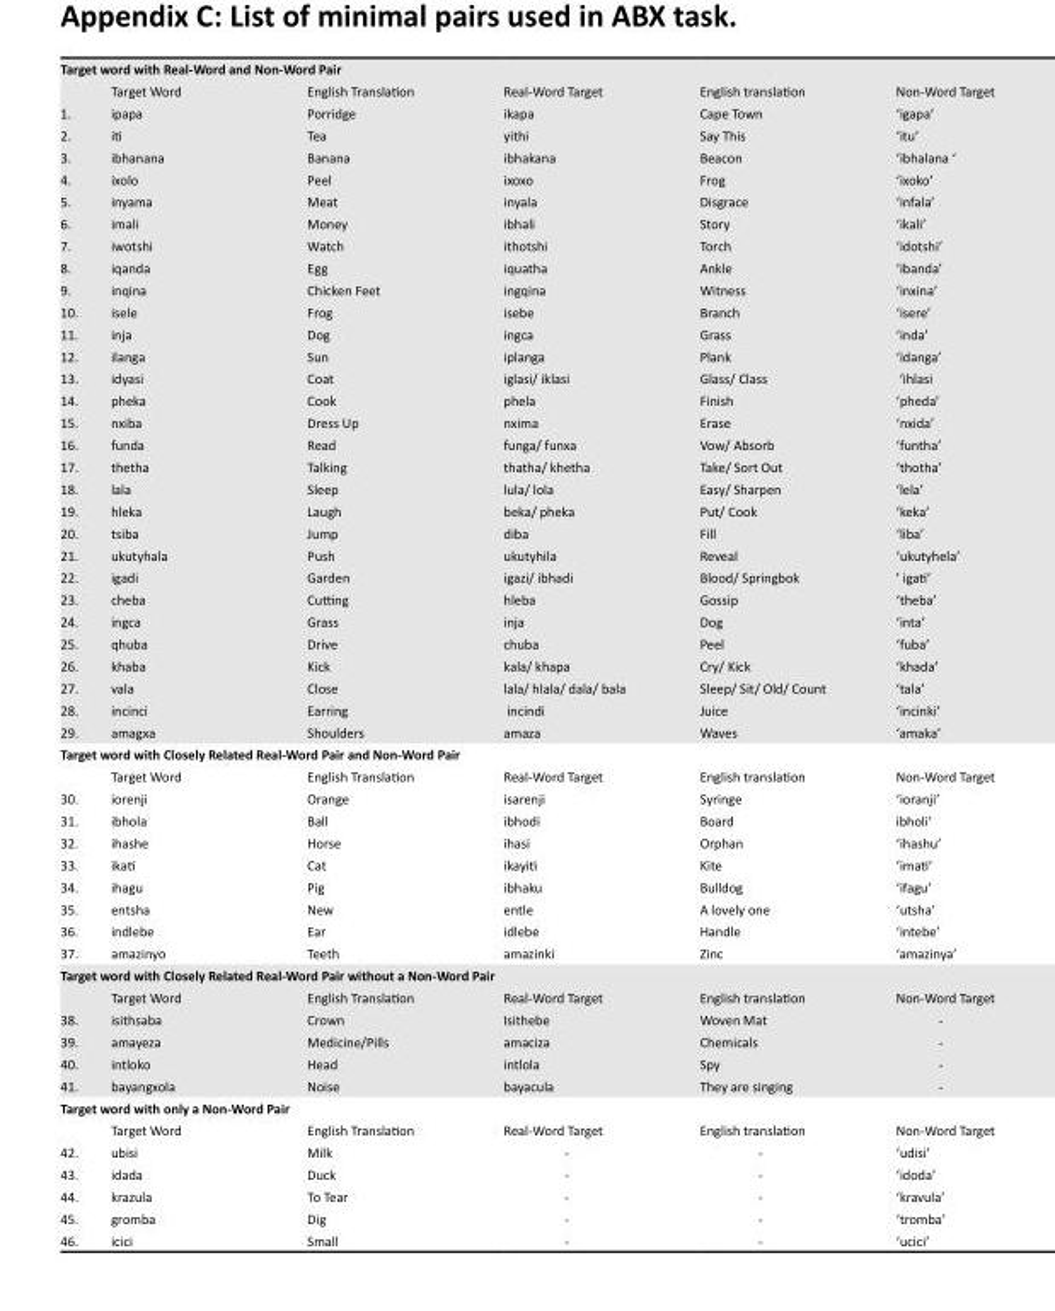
<table><tbody><tr><td colspan="6">Target word with Real-Word and Non-Word Pair</td></tr><tr><td></td><td>Target Word</td><td>English Translation</td><td>Real-Word Target</td><td>English translation</td><td>Non-Word Target</td></tr><tr><td>1.</td><td>ipapa</td><td>Porridge</td><td>ikapa</td><td>Cape Town</td><td>‘igapa’</td></tr><tr><td>2.</td><td>iti</td><td>Tea</td><td>yithi</td><td>Say This</td><td>‘itu’</td></tr><tr><td>3.</td><td>ibhanana</td><td>Banana</td><td>ibhakana</td><td>Beacon</td><td>‘ibhalana ‘</td></tr><tr><td>4.</td><td>ixolo</td><td>Peel</td><td>ixoxo</td><td>Frog</td><td>‘ixoko’</td></tr><tr><td>5.</td><td>inyama</td><td>Meat</td><td>inyala</td><td>Disgrace</td><td>‘infala’</td></tr><tr><td>6.</td><td>imali</td><td>Money</td><td>ibhali</td><td>Story</td><td>‘ikali’</td></tr><tr><td>7.</td><td>iwotshi</td><td>Watch</td><td>ithotshi</td><td>Torch</td><td>‘idotshi’</td></tr><tr><td>8.</td><td>iqanda</td><td>Egg</td><td>iquatha</td><td>Ankle</td><td>‘ibanda’</td></tr><tr><td>9.</td><td>inqina</td><td>Chicken Feet</td><td>ingqina</td><td>Witness</td><td>‘inxina’</td></tr><tr><td>10.</td><td>isele</td><td>Frog</td><td>isebe</td><td>Branch</td><td>‘isere’</td></tr><tr><td>11.</td><td>inja</td><td>Dog</td><td>ingca</td><td>Grass</td><td>‘inda’</td></tr><tr><td>12.</td><td>ilanga</td><td>Sun</td><td>iplanga</td><td>Plank</td><td>‘idanga’</td></tr><tr><td>13.</td><td>idyasi</td><td>Coat</td><td>iglasi/ iklasi</td><td>Glass/ Class</td><td>‘ihlasi</td></tr><tr><td>14.</td><td>pheka</td><td>Cook</td><td>phela</td><td>Finish</td><td>‘pheda’</td></tr><tr><td>15.</td><td>nxiba</td><td>Dress Up</td><td>nxima</td><td>Erase</td><td>‘nxida’</td></tr><tr><td>16.</td><td>funda</td><td>Read</td><td>funga/ funxa</td><td>Vow/ Absorb</td><td>‘funtha’</td></tr><tr><td>17.</td><td>thetha</td><td>Talking</td><td>thatha/ khetha</td><td>Take/ Sort Out</td><td>‘thotha’</td></tr><tr><td>18.</td><td>lala</td><td>Sleep</td><td>lula/ lola</td><td>Easy/ Sharpen</td><td>‘lela’</td></tr><tr><td>19.</td><td>hleka</td><td>Laugh</td><td>beka/ pheka</td><td>Put/ Cook</td><td>‘keka’</td></tr><tr><td>20.</td><td>tsiba</td><td>Jump</td><td>diba</td><td>Fill</td><td>‘liba’</td></tr><tr><td>21.</td><td>ukutyhala</td><td>Push</td><td>ukutyhila</td><td>Reveal</td><td>‘ukutyhela’</td></tr><tr><td>22.</td><td>igadi</td><td>Garden</td><td>igazi/ ibhadi</td><td>Blood/ Springbok</td><td>’ igati’</td></tr><tr><td>23.</td><td>cheba</td><td>Cutting</td><td>hleba</td><td>Gossip</td><td>‘theba’</td></tr><tr><td>24.</td><td>ingca</td><td>Grass</td><td>inja</td><td>Dog</td><td>‘inta’</td></tr><tr><td>25.</td><td>qhuba</td><td>Drive</td><td>chuba</td><td>Peel</td><td>‘fuba’</td></tr><tr><td>26.</td><td>khaba</td><td>Kick</td><td>kala/ khapa</td><td>Cry/ Kick</td><td>‘khada’</td></tr><tr><td>27.</td><td>vala</td><td>Close</td><td>lala/ hlala/ dala/ bala</td><td>Sleep/ Sit/ Old/ Count</td><td>‘tala’</td></tr><tr><td>28.</td><td>incinci</td><td>Earring</td><td>incindi</td><td>Juice</td><td>‘incinki’</td></tr><tr><td>29.</td><td>amagxa</td><td>Shoulders</td><td>amaza</td><td>Waves</td><td>‘amaka’</td></tr><tr><td colspan="6">Target word with Closely Related Real-Word Pair and Non-Word Pair</td></tr><tr><td></td><td>Target Word</td><td>English Translation</td><td>Real-Word Target</td><td>English translation</td><td>Non-Word Target</td></tr><tr><td>30.</td><td>iorenji</td><td>Orange</td><td>isarenji</td><td>Syringe</td><td>‘ioranji’</td></tr><tr><td>31.</td><td>ibhola</td><td>Ball</td><td>ibhodi</td><td>Board</td><td>ibholi’</td></tr><tr><td>32.</td><td>ihashe</td><td>Horse</td><td>ihasi</td><td>Orphan</td><td>‘ihashu’</td></tr><tr><td>33.</td><td>ikati</td><td>Cat</td><td>ikayiti</td><td>Kite</td><td>‘imati’</td></tr><tr><td>34.</td><td>ihagu</td><td>Pig</td><td>ibhaku</td><td>Bulldog</td><td>‘ifagu’</td></tr><tr><td>35.</td><td>entsha</td><td>New</td><td>entle</td><td>A lovely one</td><td>‘utsha’</td></tr><tr><td>36.</td><td>indlebe</td><td>Ear</td><td>idlebe</td><td>Handle</td><td>‘intebe’</td></tr><tr><td>37.</td><td>amazinyo</td><td>Teeth</td><td>amazinki</td><td>Zinc</td><td>‘amazinya’</td></tr><tr><td colspan="6">Target word with Closely Related Real-Word Pair without a Non-Word Pair</td></tr><tr><td></td><td>Target Word</td><td>English Translation</td><td>Real-Word Target</td><td>English translation</td><td>Non-Word Target</td></tr><tr><td>38.</td><td>isithsaba</td><td>Crown</td><td>Isithebe</td><td>Woven Mat</td><td>-</td></tr><tr><td>39.</td><td>amayeza</td><td>Medicine/Pills</td><td>amaciza</td><td>Chemicals</td><td>-</td></tr><tr><td>40.</td><td>intloko</td><td>Head</td><td>intlola</td><td>Spy</td><td>-</td></tr><tr><td>41.</td><td>bayangxola</td><td>Noise</td><td>bayacula</td><td>They are singing</td><td>-</td></tr><tr><td colspan="6">Target word with only a Non-Word Pair</td></tr><tr><td></td><td>Target Word</td><td>English Translation</td><td>Real-Word Target</td><td>English translation</td><td>Non-Word Target</td></tr><tr><td>42.</td><td>ubisi</td><td>Milk</td><td>-</td><td>-</td><td>‘udisi’</td></tr><tr><td>43.</td><td>idada</td><td>Duck</td><td>-</td><td>-</td><td>‘idoda’</td></tr><tr><td>44.</td><td>krazula</td><td>To Tear</td><td>-</td><td>-</td><td>‘kravula’</td></tr><tr><td>45.</td><td>gromba</td><td>Dig</td><td>-</td><td>-</td><td>‘tromba’</td></tr><tr><td>46.</td><td>icici</td><td>Small</td><td>-</td><td>-</td><td>‘ucici’</td></tr></tbody></table>